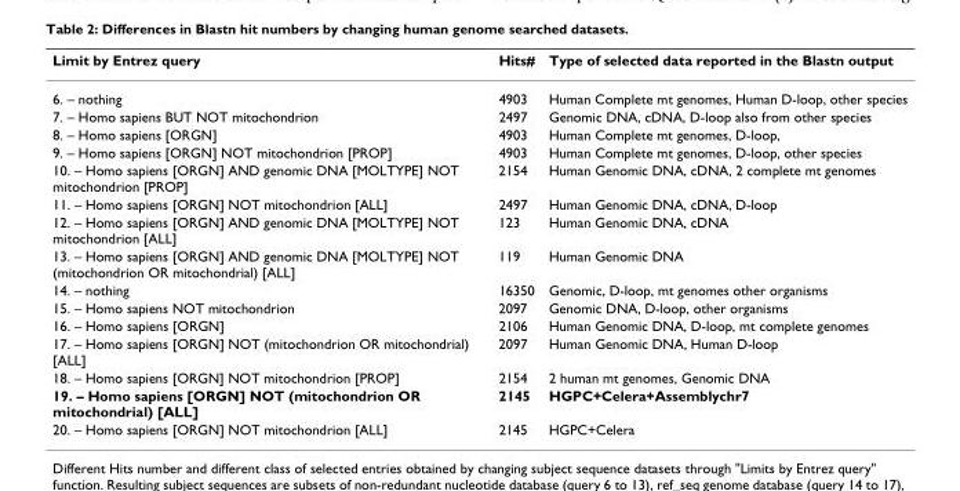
<table><thead><tr><td>Limit by Entrez query</td><td>Hits#</td><td>Type of selected data reported in the Blastn output</td></tr></thead><tbody><tr><td>6. – nothing</td><td>4903</td><td>Human Complete mt genomes, Human D-loop, other species</td></tr><tr><td>7. – Homo sapiens BUT NOT mitochondrion</td><td>2497</td><td>Genomic DNA, cDNA, D-loop also from other species</td></tr><tr><td>8. – Homo sapiens [ORGN]</td><td>4903</td><td>Human Complete mt genomes, D-loop,</td></tr><tr><td>9. – Homo sapiens [ORGN] NOT mitochondrion [PROP]</td><td>4903</td><td>Human Complete mt genomes, D-loop, other species</td></tr><tr><td>10. – Homo sapiens [ORGN] AND genomic DNA [MOLTYPE] NOT mitochondrion [PROP]</td><td>2154</td><td>Human Genomic DNA, cDNA, 2 complete mt genomes</td></tr><tr><td>11. – Homo sapiens [ORGN] NOT mitochondrion [ALL]</td><td>2497</td><td>Human Genomic DNA, cDNA, D-loop</td></tr><tr><td>12. – Homo sapiens [ORGN] AND genomic DNA [MOLTYPE] NOT mitochondrion [ALL]</td><td>123</td><td>Human Genomic DNA, cDNA</td></tr><tr><td>13. – Homo sapiens [ORGN] AND genomic DNA [MOLTYPE] NOT (mitochondrion OR mitochondrial) [ALL]</td><td>119</td><td>Human Genomic DNA</td></tr><tr><td>14. – nothing</td><td>16350</td><td>Genomic, D-loop, mt genomes other organisms</td></tr><tr><td>15. – Homo sapiens NOT mitochondrion</td><td>2097</td><td>Genomic DNA, D-loop, other organisms</td></tr><tr><td>16. – Homo sapiens [ORGN]</td><td>2106</td><td>Human Genomic DNA, D-loop, mt complete genomes</td></tr><tr><td>17. – Homo sapiens [ORGN] NOT (mitochondrion OR mitochondrial) [ALL]</td><td>2097</td><td>Human Genomic DNA, Human D-loop</td></tr><tr><td>18. – Homo sapiens [ORGN] NOT mitochondrion [PROP]</td><td>2154</td><td>2 human mt genomes, Genomic DNA</td></tr><tr><td>19. – Homo sapiens [ORGN] NOT (mitochondrion OR mitochondrial) [ALL]</td><td>2145</td><td>HGPC+Celera+Assemblychr7</td></tr><tr><td>20. – Homo sapiens [ORGN] NOT mitochondrion [ALL]</td><td>2145</td><td>HGPC+Celera</td></tr></tbody></table>